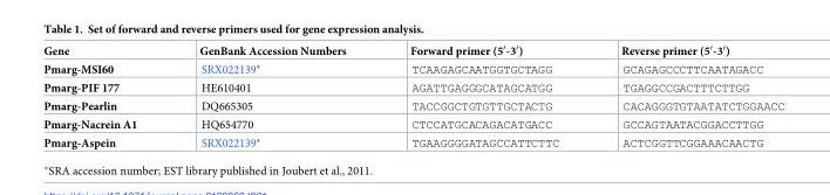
<table><thead><tr><td>Gene</td><td>GenBank Accession Numbers</td><td>Forward primer (5′-3′)</td><td>Reverse primer (5′-3′)</td></tr></thead><tbody><tr><td>Pmarg-MSI60</td><td>SRX022139*</td><td>TCAAGAGCAATGGTGCTAGG</td><td>GCAGAGCCCTTCAATAGACC</td></tr><tr><td>Pmarg-PIF 177</td><td>HE610401</td><td>AGATTGAGGGCATAGCATGG</td><td>TGAGGCCGACTTTCTTGG</td></tr><tr><td>Pmarg-Pearlin</td><td>DQ665305</td><td>TACCGGCTGTGTTGCTACTG</td><td>CACAGGGTGTAATATCTGGAACC</td></tr><tr><td>Pmarg-Nacrein A1</td><td>HQ654770</td><td>CTCCATGCACAGACATGACC</td><td>GCCAGTAATACGGACCTTGG</td></tr><tr><td>Pmarg-Aspein</td><td>SRX022139*</td><td>TGAAGGGGATAGCCATTCTTC</td><td>ACTCGGTTCGGAAACAACTG</td></tr></tbody></table>